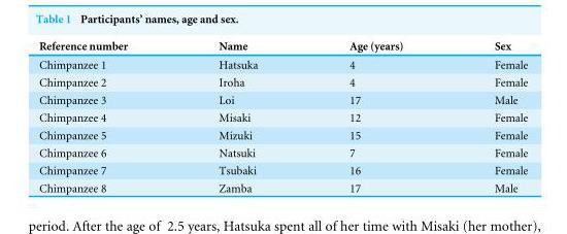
<table><thead><tr><td>Reference number</td><td>Name</td><td>Age (years)</td><td>Sex</td></tr></thead><tbody><tr><td>Chimpanzee 1</td><td>Hatsuka</td><td>4</td><td>Female</td></tr><tr><td>Chimpanzee 2</td><td>Iroha</td><td>4</td><td>Female</td></tr><tr><td>Chimpanzee 3</td><td>Loi</td><td>17</td><td>Male</td></tr><tr><td>Chimpanzee 4</td><td>Misaki</td><td>12</td><td>Female</td></tr><tr><td>Chimpanzee 5</td><td>Mizuki</td><td>15</td><td>Female</td></tr><tr><td>Chimpanzee 6</td><td>Natsuki</td><td>7</td><td>Female</td></tr><tr><td>Chimpanzee 7</td><td>Tsubaki</td><td>16</td><td>Female</td></tr><tr><td>Chimpanzee 8</td><td>Zamba</td><td>17</td><td>Male</td></tr></tbody></table>